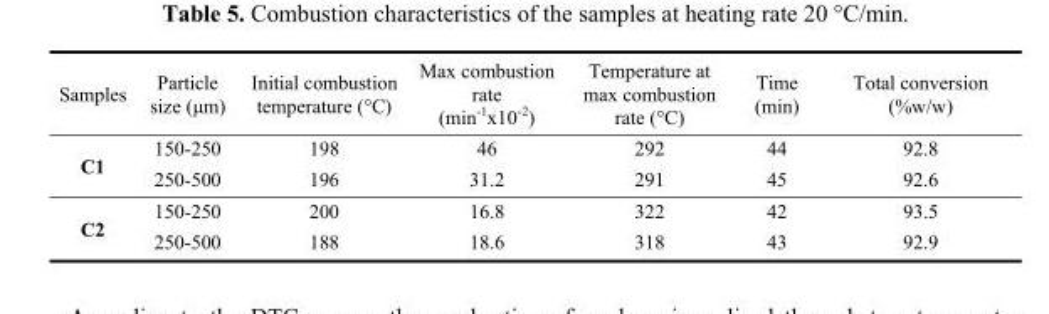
<table><thead><tr><td>Samples</td><td>Particle size (μm)</td><td>Initial combustion temperature (°C)</td><td>Max combustion rate (min-1x10-2)</td><td>Temperature at max combustion rate (°C)</td><td>Time (min)</td><td>Total conversion (%w/w)</td></tr></thead><tbody><tr><td rowspan="2">C1</td><td>150-250</td><td>198</td><td>46</td><td>292</td><td>44</td><td>92.8</td></tr><tr><td>250-500</td><td>196</td><td>31.2</td><td>291</td><td>45</td><td>92.6</td></tr><tr><td rowspan="2">C2</td><td>150-250</td><td>200</td><td>16.8</td><td>322</td><td>42</td><td>93.5</td></tr><tr><td>250-500</td><td>188</td><td>18.6</td><td>318</td><td>43</td><td>92.9</td></tr></tbody></table>